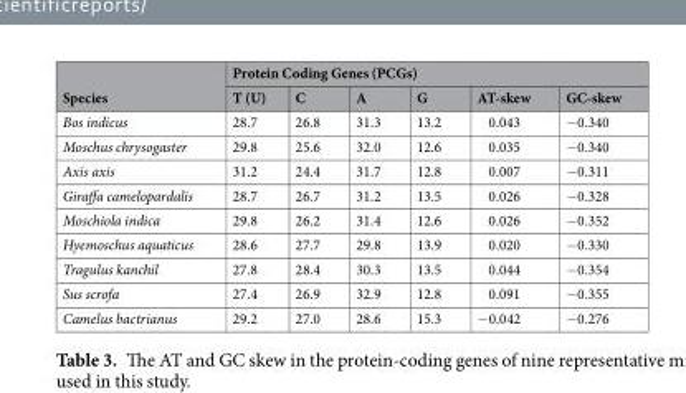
<table><thead><tr><td rowspan="2">Species</td><td colspan="6">Protein Coding Genes (PCGs)</td></tr><tr><td>T (U)</td><td>C</td><td>A</td><td>G</td><td>AT-skew</td><td>GC-skew</td></tr></thead><tbody><tr><td>Bos indicus</td><td>28.7</td><td>26.8</td><td>31.3</td><td>13.2</td><td>0.043</td><td>−0.340</td></tr><tr><td>Moschus chrysogaster</td><td>29.8</td><td>25.6</td><td>32.0</td><td>12.6</td><td>0.035</td><td>−0.340</td></tr><tr><td>Axis axis</td><td>31.2</td><td>24.4</td><td>31.7</td><td>12.8</td><td>0.007</td><td>−0.311</td></tr><tr><td>Giraffa camelopardalis</td><td>28.7</td><td>26.7</td><td>31.2</td><td>13.5</td><td>0.026</td><td>−0.328</td></tr><tr><td>Moschiola indica</td><td>29.8</td><td>26.2</td><td>31.4</td><td>12.6</td><td>0.026</td><td>−0.352</td></tr><tr><td>Hyemoschus aquaticus</td><td>28.6</td><td>27.7</td><td>29.8</td><td>13.9</td><td>0.020</td><td>−0.330</td></tr><tr><td>Tragulus kanchil</td><td>27.8</td><td>28.4</td><td>30.3</td><td>13.5</td><td>0.044</td><td>−0.354</td></tr><tr><td>Sus scrofa</td><td>27.4</td><td>26.9</td><td>32.9</td><td>12.8</td><td>0.091</td><td>−0.355</td></tr><tr><td>Camelus bactrianus</td><td>29.2</td><td>27.0</td><td>28.6</td><td>15.3</td><td>−0.042</td><td>−0.276</td></tr></tbody></table>